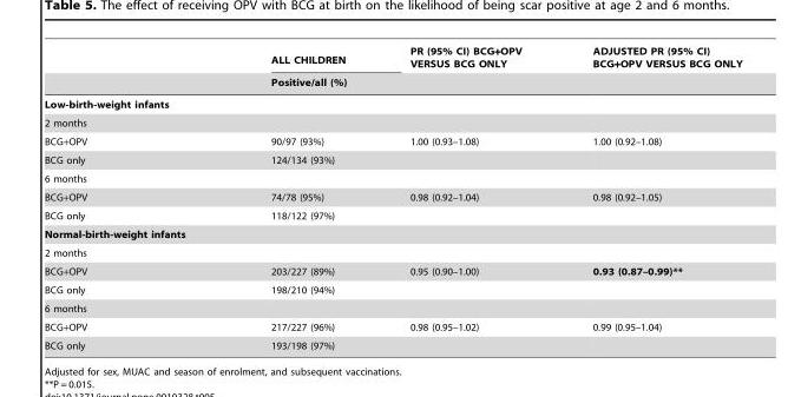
<table><thead><tr><td rowspan="2"></td><td rowspan="2">ALL CHILDREN Positive/all (%)</td><td rowspan="2">PR (95% CI) BCG+OPV VERSUS BCG ONLY</td><td rowspan="2">ADJUSTED PR (95% CI) BCG+OPV VERSUS BCG ONLY</td></tr><tr></tr></thead><tbody><tr><td colspan="4">Low-birth-weight infants</td></tr><tr><td colspan="4">2 months</td></tr><tr><td>BCG+OPV</td><td>90/97 (93%)</td><td>1.00 (0.93–1.08)</td><td>1.00 (0.92–1.08)</td></tr><tr><td>BCG only</td><td>124/134 (93%)</td><td></td><td></td></tr><tr><td colspan="4">6 months</td></tr><tr><td>BCG+OPV</td><td>74/78 (95%)</td><td>0.98 (0.92–1.04)</td><td>0.98 (0.92–1.05)</td></tr><tr><td>BCG only</td><td>118/122 (97%)</td><td></td><td></td></tr><tr><td colspan="4">Normal-birth-weight infants</td></tr><tr><td colspan="4">2 months</td></tr><tr><td>BCG+OPV</td><td>203/227 (89%)</td><td>0.95 (0.90–1.00)</td><td>0.93 (0.87–0.99)**</td></tr><tr><td>BCG only</td><td>198/210 (94%)</td><td></td><td></td></tr><tr><td colspan="4">6 months</td></tr><tr><td>BCG+OPV</td><td>217/227 (96%)</td><td>0.98 (0.95–1.02)</td><td>0.99 (0.95–1.04)</td></tr><tr><td>BCG only</td><td>193/198 (97%)</td><td></td><td></td></tr></tbody></table>